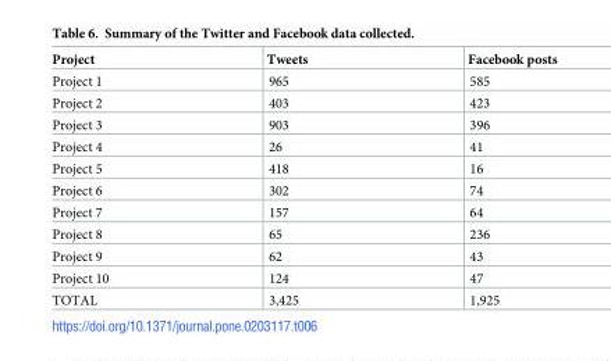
<table><thead><tr><td>Project</td><td>Tweets</td><td>Facebook posts</td></tr></thead><tbody><tr><td>Project 1</td><td>965</td><td>585</td></tr><tr><td>Project 2</td><td>403</td><td>423</td></tr><tr><td>Project 3</td><td>903</td><td>396</td></tr><tr><td>Project 4</td><td>26</td><td>41</td></tr><tr><td>Project 5</td><td>418</td><td>16</td></tr><tr><td>Project 6</td><td>302</td><td>74</td></tr><tr><td>Project 7</td><td>157</td><td>64</td></tr><tr><td>Project 8</td><td>65</td><td>236</td></tr><tr><td>Project 9</td><td>62</td><td>43</td></tr><tr><td>Project 10</td><td>124</td><td>47</td></tr><tr><td>TOTAL</td><td>3,425</td><td>1,925</td></tr></tbody></table>